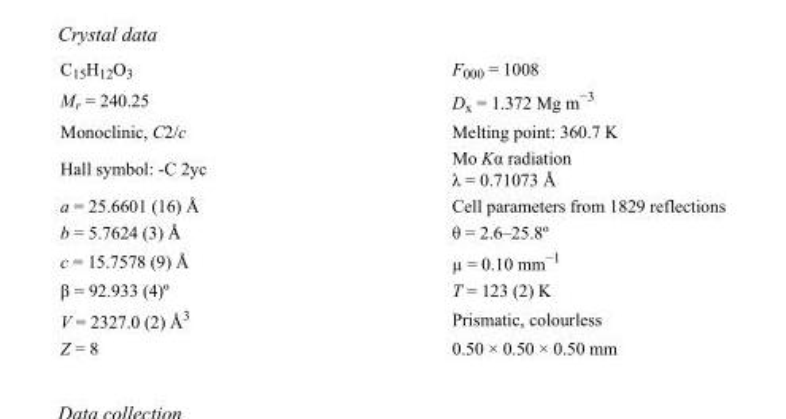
<table><tbody><tr><td>C<sub>15</sub>H<sub>12</sub>O<sub>3</sub></td><td>F<sub>000</sub> = 1008</td></tr><tr><td>M<sub>r</sub> = 240.25</td><td>D<sub>x</sub> = 1.372 Mg m<sup>−3</sup></td></tr><tr><td>Monoclinic, C2/c</td><td>Melting point: 360.7 K</td></tr><tr><td>Hall symbol: -C 2yc</td><td>Mo Kα radiation λ = 0.71073 Å</td></tr><tr><td>a = 25.6601 (16) Å</td><td>Cell parameters from 1829 reflections</td></tr><tr><td>b = 5.7624 (3) Å</td><td>θ = 2.6–25.8º</td></tr><tr><td>c = 15.7578 (9) Å</td><td>µ = 0.10 mm<sup>−1</sup></td></tr><tr><td>β = 92.933 (4)º</td><td>T = 123 (2) K</td></tr><tr><td>V = 2327.0 (2) Å<sup>3</sup></td><td>Prismatic, colourless</td></tr><tr><td>Z = 8</td><td>0.50 × 0.50 × 0.50 mm</td></tr></tbody></table>